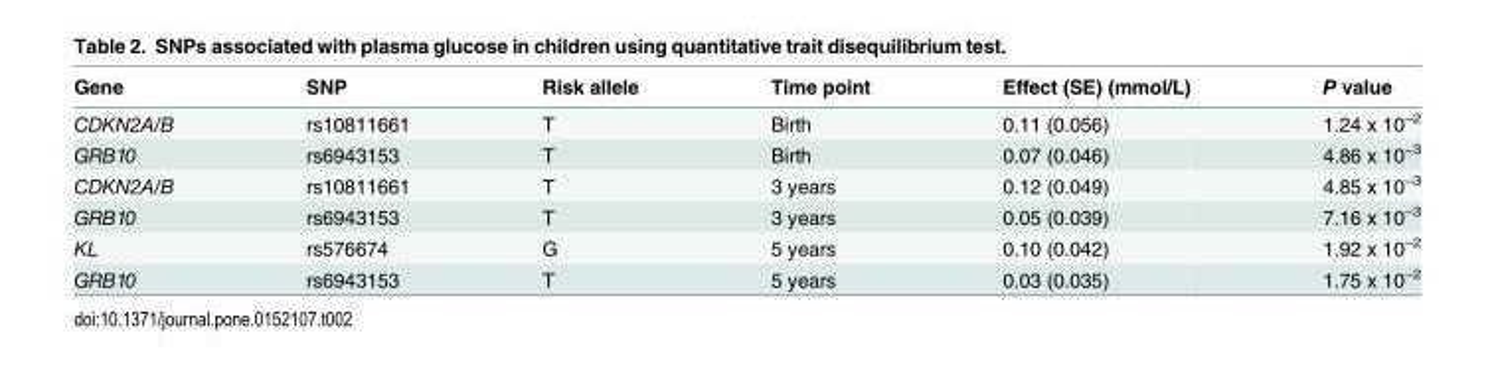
<table><thead><tr><td>Gene</td><td>SNP</td><td>Risk allele</td><td>Time point</td><td>Effect (SE) (mmol/L)</td><td>P value</td></tr></thead><tbody><tr><td>CDKN2A/B</td><td>rs10811661</td><td>T</td><td>Birth</td><td>0.11 (0.056)</td><td>1.24 x 10<sup>−2</sup></td></tr><tr><td>GRB10</td><td>rs6943153</td><td>T</td><td>Birth</td><td>0.07 (0.046)</td><td>4.86 x 10<sup>−3</sup></td></tr><tr><td>CDKN2A/B</td><td>rs10811661</td><td>T</td><td>3 years</td><td>0.12 (0.049)</td><td>4.85 x 10<sup>−3</sup></td></tr><tr><td>GRB10</td><td>rs6943153</td><td>T</td><td>3 years</td><td>0.05 (0.039)</td><td>7.16 x 10<sup>−3</sup></td></tr><tr><td>KL</td><td>rs576674</td><td>G</td><td>5 years</td><td>0.10 (0.042)</td><td>1.92 x 10<sup>−2</sup></td></tr><tr><td>GRB10</td><td>rs6943153</td><td>T</td><td>5 years</td><td>0.03 (0.035)</td><td>1.75 x 10<sup>−2</sup></td></tr></tbody></table>